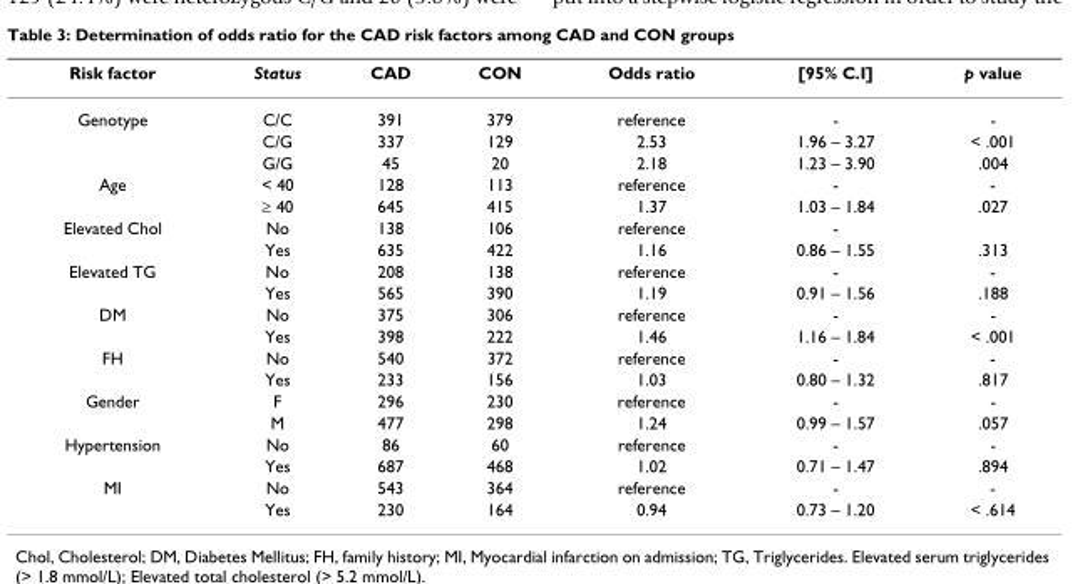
<table><thead><tr><td>Risk factor</td><td>Status</td><td>CAD</td><td>CON</td><td>Odds ratio</td><td>[95% C.I]</td><td>p value</td></tr></thead><tbody><tr><td rowspan="3">Genotype</td><td>C/C</td><td>391</td><td>379</td><td>reference</td><td>-</td><td>-</td></tr><tr><td>C/G</td><td>337</td><td>129</td><td>2.53</td><td>1.96 – 3.27</td><td>&lt; .001</td></tr><tr><td>G/G</td><td>45</td><td>20</td><td>2.18</td><td>1.23 – 3.90</td><td>.004</td></tr><tr><td rowspan="2">Age</td><td>&lt; 40</td><td>128</td><td>113</td><td>reference</td><td>-</td><td>-</td></tr><tr><td>≥ 40</td><td>645</td><td>415</td><td>1.37</td><td>1.03 – 1.84</td><td>.027</td></tr><tr><td rowspan="2">Elevated Chol</td><td>No</td><td>138</td><td>106</td><td>reference</td><td>-</td><td></td></tr><tr><td>Yes</td><td>635</td><td>422</td><td>1.16</td><td>0.86 – 1.55</td><td>.313</td></tr><tr><td rowspan="2">Elevated TG</td><td>No</td><td>208</td><td>138</td><td>reference</td><td>-</td><td>-</td></tr><tr><td>Yes</td><td>565</td><td>390</td><td>1.19</td><td>0.91 – 1.56</td><td>.188</td></tr><tr><td rowspan="2">DM</td><td>No</td><td>375</td><td>306</td><td>reference</td><td>-</td><td>-</td></tr><tr><td>Yes</td><td>398</td><td>222</td><td>1.46</td><td>1.16 – 1.84</td><td>&lt; .001</td></tr><tr><td rowspan="2">FH</td><td>No</td><td>540</td><td>372</td><td>reference</td><td>-</td><td>-</td></tr><tr><td>Yes</td><td>233</td><td>156</td><td>1.03</td><td>0.80 – 1.32</td><td>.817</td></tr><tr><td rowspan="2">Gender</td><td>F</td><td>296</td><td>230</td><td>reference</td><td>-</td><td>-</td></tr><tr><td>M</td><td>477</td><td>298</td><td>1.24</td><td>0.99 – 1.57</td><td>.057</td></tr><tr><td rowspan="2">Hypertension</td><td>No</td><td>86</td><td>60</td><td>reference</td><td>-</td><td>-</td></tr><tr><td>Yes</td><td>687</td><td>468</td><td>1.02</td><td>0.71 – 1.47</td><td>.894</td></tr><tr><td rowspan="2">MI</td><td>No</td><td>543</td><td>364</td><td>reference</td><td>-</td><td>-</td></tr><tr><td>Yes</td><td>230</td><td>164</td><td>0.94</td><td>0.73 – 1.20</td><td>&lt; .614</td></tr></tbody></table>